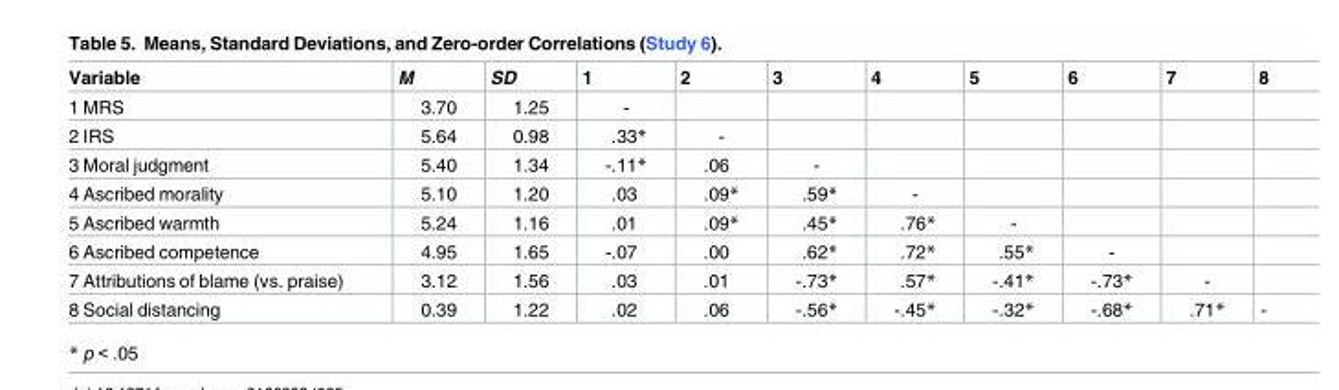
<table><thead><tr><td>Variable</td><td>M</td><td>SD</td><td>1</td><td>2</td><td>3</td><td>4</td><td>5</td><td>6</td><td>7</td><td>8</td></tr></thead><tbody><tr><td>1 MRS</td><td>3.70</td><td>1.25</td><td>-</td><td></td><td></td><td></td><td></td><td></td><td></td><td></td></tr><tr><td>2 IRS</td><td>5.64</td><td>0.98</td><td>.33*</td><td>-</td><td></td><td></td><td></td><td></td><td></td><td></td></tr><tr><td>3 Moral judgment</td><td>5.40</td><td>1.34</td><td>-.11*</td><td>.06</td><td>-</td><td></td><td></td><td></td><td></td><td></td></tr><tr><td>4 Ascribed morality</td><td>5.10</td><td>1.20</td><td>.03</td><td>.09*</td><td>.59*</td><td>-</td><td></td><td></td><td></td><td></td></tr><tr><td>5 Ascribed warmth</td><td>5.24</td><td>1.16</td><td>.01</td><td>.09*</td><td>.45*</td><td>.76*</td><td>-</td><td></td><td></td><td></td></tr><tr><td>6 Ascribed competence</td><td>4.95</td><td>1.65</td><td>-.07</td><td>.00</td><td>.62*</td><td>.72*</td><td>.55*</td><td>-</td><td></td><td></td></tr><tr><td>7 Attributions of blame (vs. praise)</td><td>3.12</td><td>1.56</td><td>.03</td><td>.01</td><td>-.73*</td><td>.57*</td><td>-.41*</td><td>-.73*</td><td>-</td><td></td></tr><tr><td>8 Social distancing</td><td>0.39</td><td>1.22</td><td>.02</td><td>.06</td><td>-.56*</td><td>-.45*</td><td>-.32*</td><td>-.68*</td><td>.71*</td><td>-</td></tr></tbody></table>